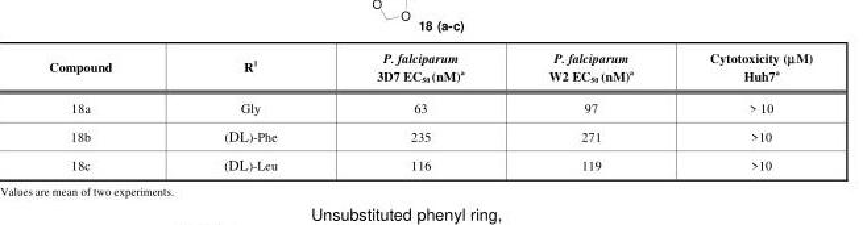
<table><thead><tr><td>Compound</td><td>R<sup>1</sup></td><td>P. falciparum 3D7 EC<sub>50</sub> (nM)<sup>a</sup></td><td>P. falciparum W2 EC<sub>50</sub> (nM)<sup>a</sup></td><td>Cytotoxicity (μM) Huh7<sup>a</sup></td></tr></thead><tbody><tr><td>18a</td><td>Gly</td><td>63</td><td>97</td><td>&gt; 10</td></tr><tr><td>18b</td><td>(DL)-Phe</td><td>235</td><td>271</td><td>&gt;10</td></tr><tr><td>18c</td><td>(DL)-Leu</td><td>116</td><td>119</td><td>&gt;10</td></tr></tbody></table>